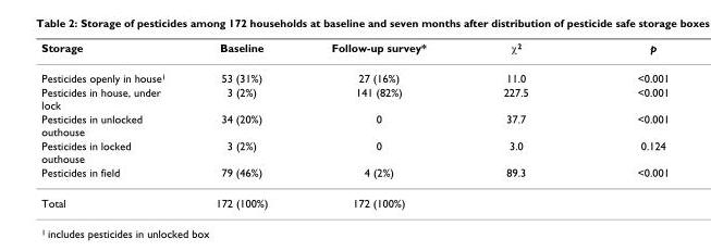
<table><thead><tr><td>Storage</td><td>Baseline</td><td>Follow-up survey*</td><td>χ<sup>2</sup></td><td>p</td></tr></thead><tbody><tr><td>Pesticides openly in house<sup>1</sup></td><td>53 (31%)</td><td>27 (16%)</td><td>11.0</td><td>&lt;0.001</td></tr><tr><td>Pesticides in house, under lock</td><td>3 (2%)</td><td>141 (82%)</td><td>227.5</td><td>&lt;0.001</td></tr><tr><td>Pesticides in unlocked outhouse</td><td>34 (20%)</td><td>0</td><td>37.7</td><td>&lt;0.001</td></tr><tr><td>Pesticides in locked outhouse</td><td>3 (2%)</td><td>0</td><td>3.0</td><td>0.124</td></tr><tr><td>Pesticides in field</td><td>79 (46%)</td><td>4 (2%)</td><td>89.3</td><td>&lt;0.001</td></tr><tr><td>Total</td><td>172 (100%)</td><td>172 (100%)</td><td></td><td></td></tr></tbody></table>